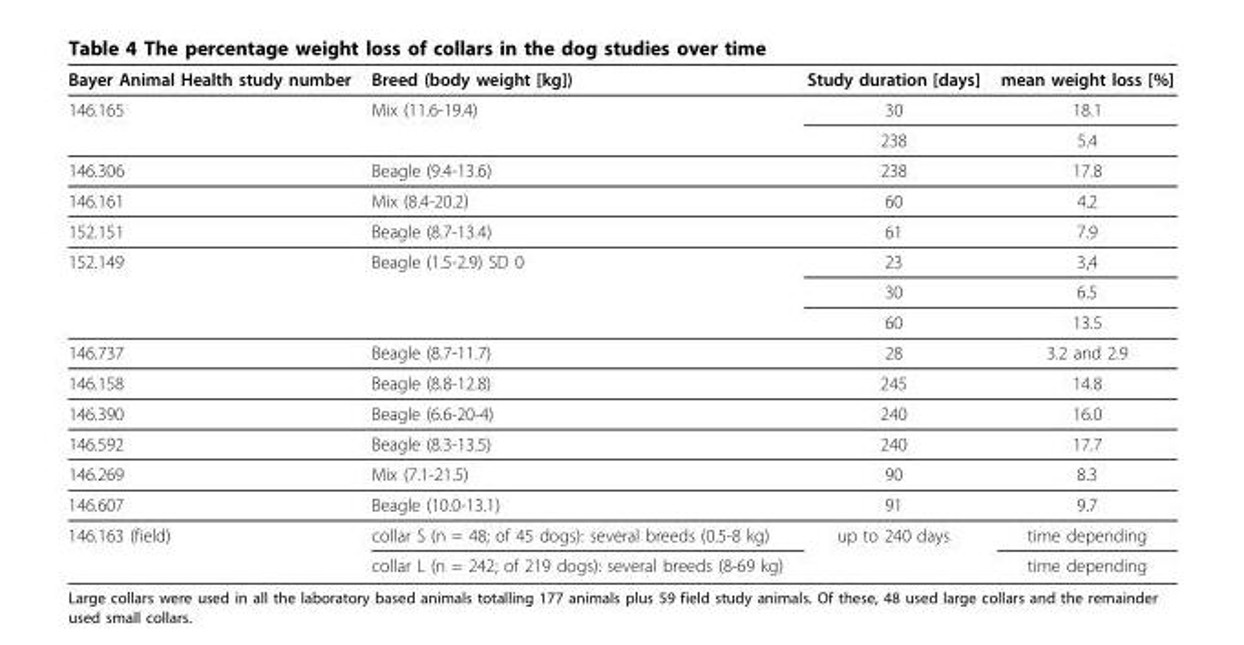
<table><thead><tr><td>Bayer Animal Health study number</td><td>Breed (body weight [kg])</td><td>Study duration [days]</td><td>mean weight loss [%]</td></tr></thead><tbody><tr><td rowspan="2">146.165</td><td>Mix (11.6-19.4)</td><td>30</td><td>18.1</td></tr><tr><td></td><td>238</td><td>5.4</td></tr><tr><td>146.306</td><td>Beagle (9.4-13.6)</td><td>238</td><td>17.8</td></tr><tr><td>146.161</td><td>Mix (8.4-20.2)</td><td>60</td><td>4.2</td></tr><tr><td>152.151</td><td>Beagle (8.7-13.4)</td><td>61</td><td>7.9</td></tr><tr><td rowspan="3">152.149</td><td>Beagle (1.5-2.9) SD 0</td><td>23</td><td>3,4</td></tr><tr><td></td><td>30</td><td>6.5</td></tr><tr><td></td><td>60</td><td>13.5</td></tr><tr><td>146.737</td><td>Beagle (8.7-11.7)</td><td>28</td><td>3.2 and 2.9</td></tr><tr><td>146.158</td><td>Beagle (8.8-12.8)</td><td>245</td><td>14.8</td></tr><tr><td>146.390</td><td>Beagle (6.6-20-4)</td><td>240</td><td>16.0</td></tr><tr><td>146.592</td><td>Beagle (8.3-13.5)</td><td>240</td><td>17.7</td></tr><tr><td>146.269</td><td>Mix (7.1-21.5)</td><td>90</td><td>8.3</td></tr><tr><td>146.607</td><td>Beagle (10.0-13.1)</td><td>91</td><td>9.7</td></tr><tr><td rowspan="2">146.163 (field)</td><td>collar S (n = 48; of 45 dogs): several breeds (0.5-8 kg)</td><td>up to 240 days</td><td>time depending</td></tr><tr><td>collar L (n = 242; of 219 dogs): several breeds (8-69 kg)</td><td></td><td>time depending</td></tr></tbody></table>